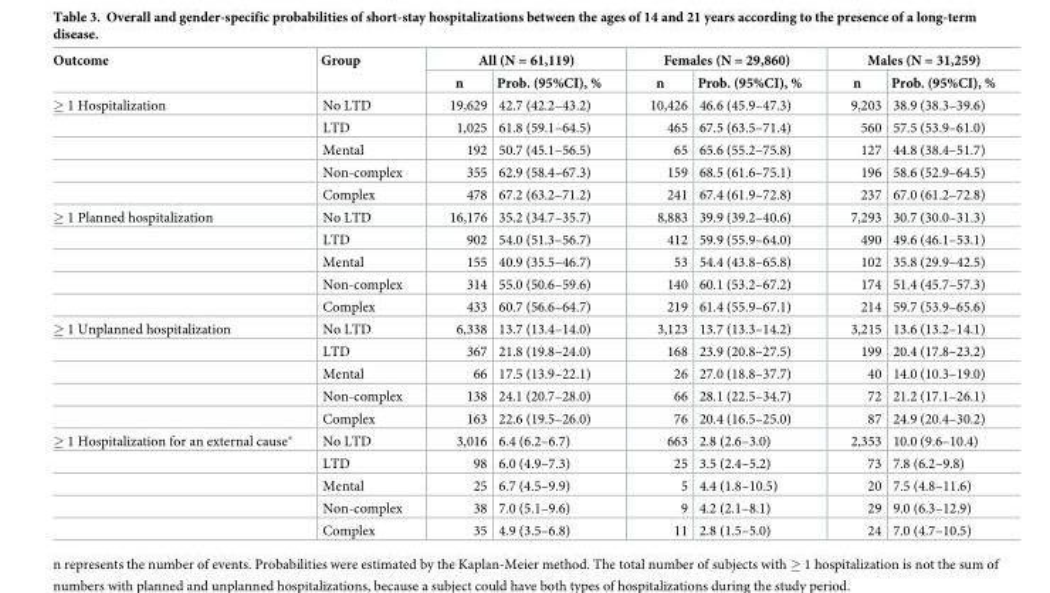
<table><thead><tr><td rowspan="2">Outcome</td><td rowspan="2">Group</td><td colspan="2">All (N = 61,119)</td><td colspan="2">Females (N = 29,860)</td><td colspan="2">Males (N = 31,259)</td></tr><tr><td>n</td><td>Prob. (95%CI), %</td><td>n</td><td>Prob. (95%CI), %</td><td>n</td><td>Prob. (95%CI), %</td></tr></thead><tbody><tr><td rowspan="5">≥ 1 Hospitalization</td><td>No LTD</td><td>19,629</td><td>42.7 (42.2–43.2)</td><td>10,426</td><td>46.6 (45.9–47.3)</td><td>9,203</td><td>38.9 (38.3–39.6)</td></tr><tr><td>LTD</td><td>1,025</td><td>61.8 (59.1–64.5)</td><td>465</td><td>67.5 (63.5–71.4)</td><td>560</td><td>57.5 (53.9–61.0)</td></tr><tr><td>Mental</td><td>192</td><td>50.7 (45.1–56.5)</td><td>65</td><td>65.6 (55.2–75.8)</td><td>127</td><td>44.8 (38.4–51.7)</td></tr><tr><td>Non-complex</td><td>355</td><td>62.9 (58.4–67.3)</td><td>159</td><td>68.5 (61.6–75.1)</td><td>196</td><td>58.6 (52.9–64.5)</td></tr><tr><td>Complex</td><td>478</td><td>67.2 (63.2–71.2)</td><td>241</td><td>67.4 (61.9–72.8)</td><td>237</td><td>67.0 (61.2–72.8)</td></tr><tr><td rowspan="5">≥ 1 Planned hospitalization</td><td>No LTD</td><td>16,176</td><td>35.2 (34.7–35.7)</td><td>8,883</td><td>39.9 (39.2–40.6)</td><td>7,293</td><td>30.7 (30.0–31.3)</td></tr><tr><td>LTD</td><td>902</td><td>54.0 (51.3–56.7)</td><td>412</td><td>59.9 (55.9–64.0)</td><td>490</td><td>49.6 (46.1–53.1)</td></tr><tr><td>Mental</td><td>155</td><td>40.9 (35.5–46.7)</td><td>53</td><td>54.4 (43.8–65.8)</td><td>102</td><td>35.8 (29.9–42.5)</td></tr><tr><td>Non-complex</td><td>314</td><td>55.0 (50.6–59.6)</td><td>140</td><td>60.1 (53.2–67.2)</td><td>174</td><td>51.4 (45.7–57.3)</td></tr><tr><td>Complex</td><td>433</td><td>60.7 (56.6–64.7)</td><td>219</td><td>61.4 (55.9–67.1)</td><td>214</td><td>59.7 (53.9–65.6)</td></tr><tr><td rowspan="5">≥ 1 Unplanned hospitalization</td><td>No LTD</td><td>6,338</td><td>13.7 (13.4–14.0)</td><td>3,123</td><td>13.7 (13.3–14.2)</td><td>3,215</td><td>13.6 (13.2–14.1)</td></tr><tr><td>LTD</td><td>367</td><td>21.8 (19.8–24.0)</td><td>168</td><td>23.9 (20.8–27.5)</td><td>199</td><td>20.4 (17.8–23.2)</td></tr><tr><td>Mental</td><td>66</td><td>17.5 (13.9–22.1)</td><td>26</td><td>27.0 (18.8–37.7)</td><td>40</td><td>14.0 (10.3–19.0)</td></tr><tr><td>Non-complex</td><td>138</td><td>24.1 (20.7–28.0)</td><td>66</td><td>28.1 (22.5–34.7)</td><td>72</td><td>21.2 (17.1–26.1)</td></tr><tr><td>Complex</td><td>163</td><td>22.6 (19.5–26.0)</td><td>76</td><td>20.4 (16.5–25.0)</td><td>87</td><td>24.9 (20.4–30.2)</td></tr><tr><td rowspan="5">≥ 1 Hospitalization for an external cause*</td><td>No LTD</td><td>3,016</td><td>6.4 (6.2–6.7)</td><td>663</td><td>2.8 (2.6–3.0)</td><td>2,353</td><td>10.0 (9.6–10.4)</td></tr><tr><td>LTD</td><td>98</td><td>6.0 (4.9–7.3)</td><td>25</td><td>3.5 (2.4–5.2)</td><td>73</td><td>7.8 (6.2–9.8)</td></tr><tr><td>Mental</td><td>25</td><td>6.7 (4.5–9.9)</td><td>5</td><td>4.4 (1.8–10.5)</td><td>20</td><td>7.5 (4.8–11.6)</td></tr><tr><td>Non-complex</td><td>38</td><td>7.0 (5.1–9.6)</td><td>9</td><td>4.2 (2.1–8.1)</td><td>29</td><td>9.0 (6.3–12.9)</td></tr><tr><td>Complex</td><td>35</td><td>4.9 (3.5–6.8)</td><td>11</td><td>2.8 (1.5–5.0)</td><td>24</td><td>7.0 (4.7–10.5)</td></tr></tbody></table>